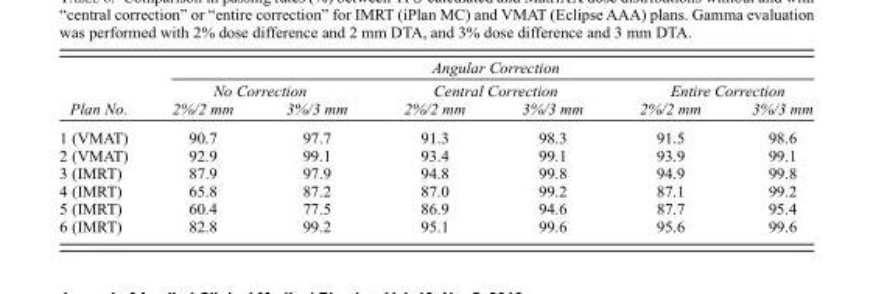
<table><thead><tr><td rowspan="3">Plan No.</td><td colspan="6">Angular Correction</td></tr><tr><td colspan="2">No Correction</td><td colspan="2">Central Correction</td><td colspan="2">Entire Correction</td></tr><tr><td>2%/2 mm</td><td>3%/3 mm</td><td>2%/2 mm</td><td>3%/3 mm</td><td>2%/2 mm</td><td>3%/3 mm</td></tr></thead><tbody><tr><td>1 (VMAT)</td><td>90.7</td><td>97.7</td><td>91.3</td><td>98.3</td><td>91.5</td><td>98.6</td></tr><tr><td>2 (VMAT)</td><td>92.9</td><td>99.1</td><td>93.4</td><td>99.1</td><td>93.9</td><td>99.1</td></tr><tr><td>3 (IMRT)</td><td>87.9</td><td>97.9</td><td>94.8</td><td>99.8</td><td>94.9</td><td>99.8</td></tr><tr><td>4 (IMRT)</td><td>65.8</td><td>87.2</td><td>87.0</td><td>99.2</td><td>87.1</td><td>99.2</td></tr><tr><td>5 (IMRT)</td><td>60.4</td><td>77.5</td><td>86.9</td><td>94.6</td><td>87.7</td><td>95.4</td></tr><tr><td>6 (IMRT)</td><td>82.8</td><td>99.2</td><td>95.1</td><td>99.6</td><td>95.6</td><td>99.6</td></tr></tbody></table>